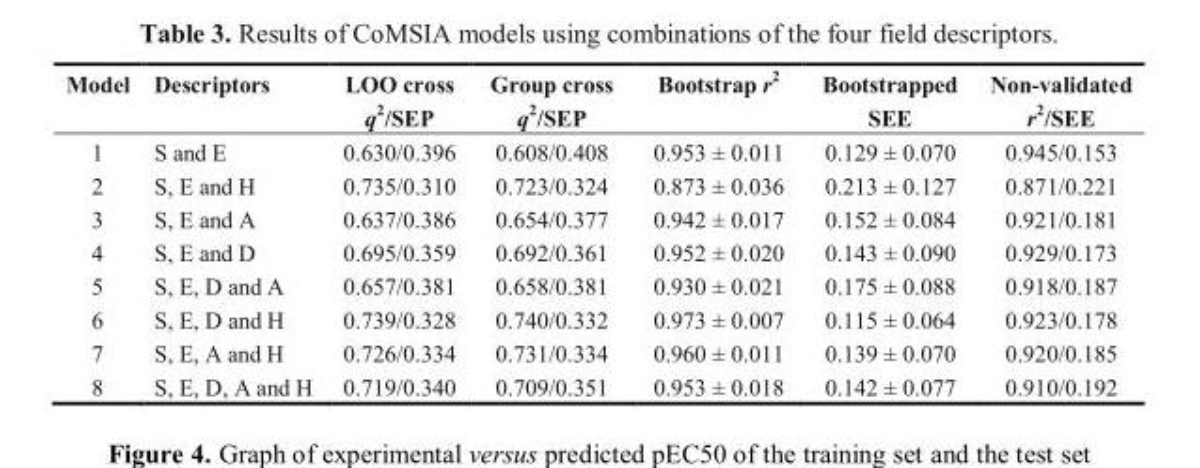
<table><thead><tr><td>Model</td><td>Descriptors</td><td>LOO cross q<sup>2</sup>/SEP</td><td>Group cross q<sup>2</sup>/SEP</td><td>Bootstrap r<sup>2</sup></td><td>Bootstrapped SEE</td><td>Non-validated r<sup>2</sup>/SEE</td></tr></thead><tbody><tr><td>1</td><td>S and E</td><td>0.630/0.396</td><td>0.608/0.408</td><td>0.953 ± 0.011</td><td>0.129 ± 0.070</td><td>0.945/0.153</td></tr><tr><td>2</td><td>S, E and H</td><td>0.735/0.310</td><td>0.723/0.324</td><td>0.873 ± 0.036</td><td>0.213 ± 0.127</td><td>0.871/0.221</td></tr><tr><td>3</td><td>S, E and A</td><td>0.637/0.386</td><td>0.654/0.377</td><td>0.942 ± 0.017</td><td>0.152 ± 0.084</td><td>0.921/0.181</td></tr><tr><td>4</td><td>S, E and D</td><td>0.695/0.359</td><td>0.692/0.361</td><td>0.952 ± 0.020</td><td>0.143 ± 0.090</td><td>0.929/0.173</td></tr><tr><td>5</td><td>S, E, D and A</td><td>0.657/0.381</td><td>0.658/0.381</td><td>0.930 ± 0.021</td><td>0.175 ± 0.088</td><td>0.918/0.187</td></tr><tr><td>6</td><td>S, E, D and H</td><td>0.739/0.328</td><td>0.740/0.332</td><td>0.973 ± 0.007</td><td>0.115 ± 0.064</td><td>0.923/0.178</td></tr><tr><td>7</td><td>S, E, A and H</td><td>0.726/0.334</td><td>0.731/0.334</td><td>0.960 ± 0.011</td><td>0.139 ± 0.070</td><td>0.920/0.185</td></tr><tr><td>8</td><td>S, E, D, A and H</td><td>0.719/0.340</td><td>0.709/0.351</td><td>0.953 ± 0.018</td><td>0.142 ± 0.077</td><td>0.910/0.192</td></tr></tbody></table>